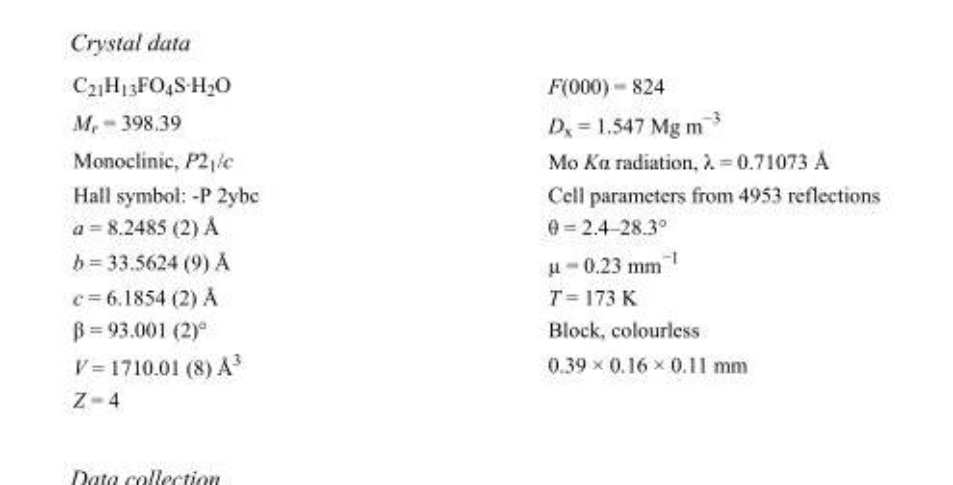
<table><tbody><tr><td>C<sub>21</sub>H<sub>13</sub>FO<sub>4</sub>S·H<sub>2</sub>O</td><td>F(000) = 824</td></tr><tr><td>M<sub>r</sub> = 398.39</td><td>D<sub>x</sub> = 1.547 Mg m<sup>−3</sup></td></tr><tr><td>Monoclinic, P2<sub>1</sub>/c</td><td>Mo Kα radiation, λ = 0.71073 Å</td></tr><tr><td>Hall symbol: -P 2ybc</td><td>Cell parameters from 4953 reflections</td></tr><tr><td>a = 8.2485 (2) Å</td><td>θ = 2.4–28.3°</td></tr><tr><td>b = 33.5624 (9) Å</td><td>µ = 0.23 mm<sup>−1</sup></td></tr><tr><td>c = 6.1854 (2) Å</td><td>T = 173 K</td></tr><tr><td>β = 93.001 (2)°</td><td>Block, colourless</td></tr><tr><td>V = 1710.01 (8) Å<sup>3</sup></td><td>0.39 × 0.16 × 0.11 mm</td></tr><tr><td>Z = 4</td><td></td></tr></tbody></table>